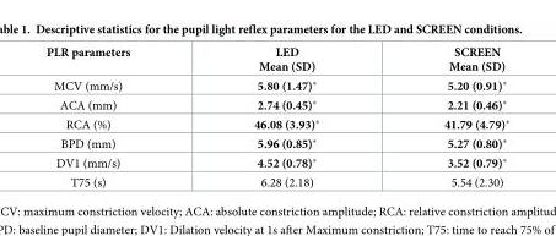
<table><thead><tr><td>PLR parameters</td><td>LED Mean (SD)</td><td>SCREEN Mean (SD)</td></tr></thead><tbody><tr><td>MCV (mm/s)</td><td>5.80 (1.47)*</td><td>5.20 (0.91)*</td></tr><tr><td>ACA (mm)</td><td>2.74 (0.45)*</td><td>2.21 (0.46)*</td></tr><tr><td>RCA (%)</td><td>46.08 (3.93)*</td><td>41.79 (4.79)*</td></tr><tr><td>BPD (mm)</td><td>5.96 (0.85)*</td><td>5.27 (0.80)*</td></tr><tr><td>DV1 (mm/s)</td><td>4.52 (0.78)*</td><td>3.52 (0.79)*</td></tr><tr><td>T75 (s)</td><td>6.28 (2.18)</td><td>5.54 (2.30)</td></tr></tbody></table>